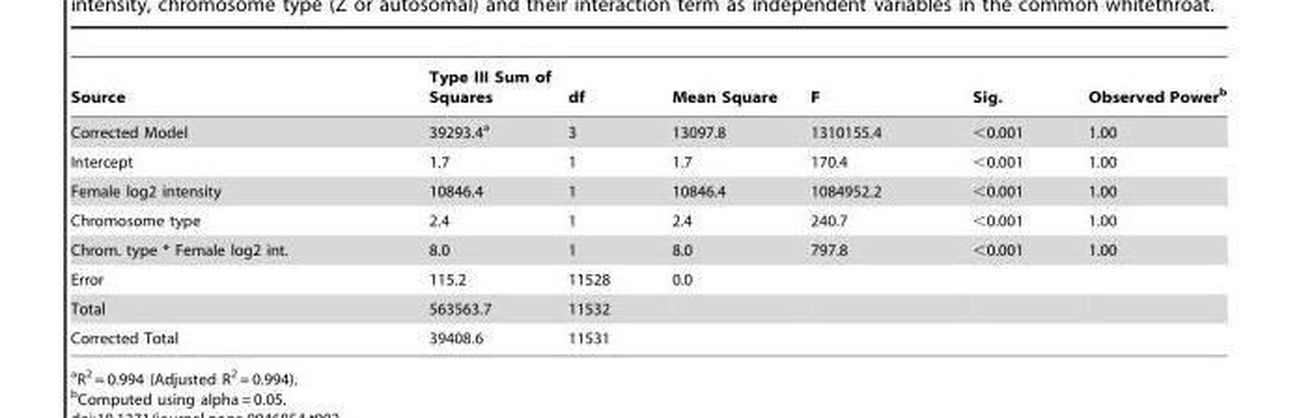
<table><thead><tr><td>Source</td><td>Type III Sum of Squares</td><td>df</td><td>Mean Square</td><td>F</td><td>Sig.</td><td>Observed Power<sup>b</sup></td></tr></thead><tbody><tr><td>Corrected Model</td><td>39293.4<sup>a</sup></td><td>3</td><td>13097.8</td><td>1310155.4</td><td>&lt;0.001</td><td>1.00</td></tr><tr><td>Intercept</td><td>1.7</td><td>1</td><td>1.7</td><td>170.4</td><td>&lt;0.001</td><td>1.00</td></tr><tr><td>Female log2 intensity</td><td>10846.4</td><td>1</td><td>10846.4</td><td>1084952.2</td><td>&lt;0.001</td><td>1.00</td></tr><tr><td>Chromosome type</td><td>2.4</td><td>1</td><td>2.4</td><td>240.7</td><td>&lt;0.001</td><td>1.00</td></tr><tr><td>Chrom. type * Female log2 int.</td><td>8.0</td><td>1</td><td>8.0</td><td>797.8</td><td>&lt;0.001</td><td>1.00</td></tr><tr><td>Error</td><td>115.2</td><td>11528</td><td>0.0</td><td></td><td></td><td></td></tr><tr><td>Total</td><td>563563.7</td><td>11532</td><td></td><td></td><td></td><td></td></tr><tr><td>Corrected Total</td><td>39408.6</td><td>11531</td><td></td><td></td><td></td><td></td></tr></tbody></table>